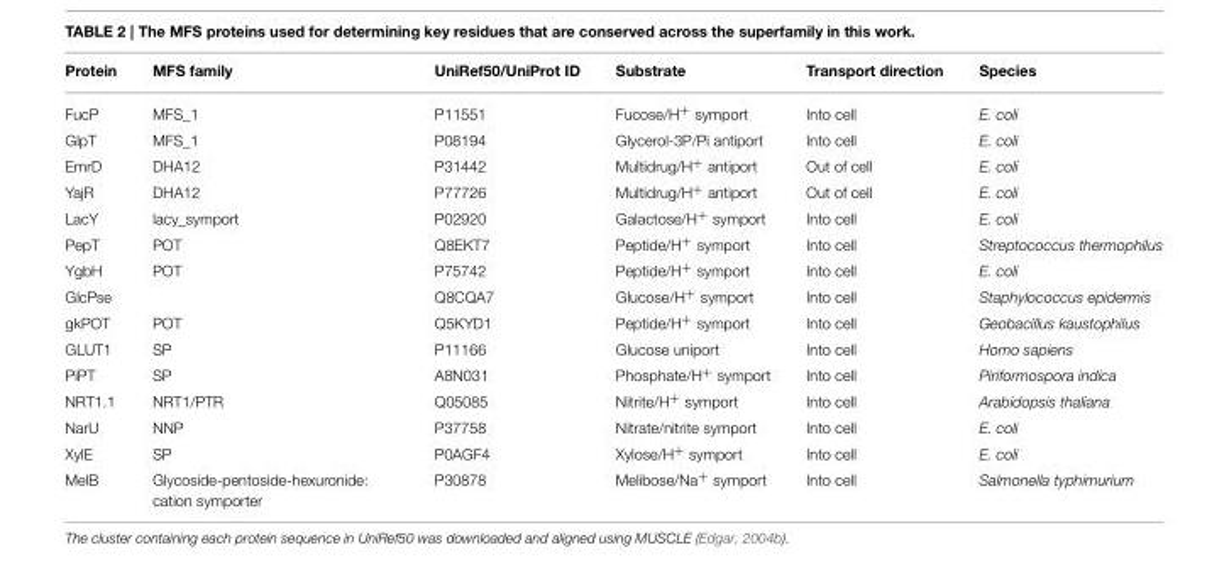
<table><thead><tr><td>Protein</td><td>MFS family</td><td>UniRef50/UniProt ID</td><td>Substrate</td><td>Transport direction</td><td>Species</td></tr></thead><tbody><tr><td>FucP</td><td>MFS_1</td><td>P11551</td><td>Fucose/H<sup>+</sup> symport</td><td>Into cell</td><td>E. coli</td></tr><tr><td>GlpT</td><td>MFS_1</td><td>P08194</td><td>Glycerol-3P/Pi antiport</td><td>Into cell</td><td>E. coli</td></tr><tr><td>EmrD</td><td>DHA12</td><td>P31442</td><td>Multidrug/H<sup>+</sup> antiport</td><td>Out of cell</td><td>E. coli</td></tr><tr><td>YajR</td><td>DHA12</td><td>P77726</td><td>Multidrug/H<sup>+</sup> antiport</td><td>Out of cell</td><td>E. coli</td></tr><tr><td>LacY</td><td>lacy_symport</td><td>P02920</td><td>Galactose/H<sup>+</sup> symport</td><td>Into cell</td><td>E. coli</td></tr><tr><td>PepT</td><td>POT</td><td>Q8EKT7</td><td>Peptide/H<sup>+</sup> symport</td><td>Into cell</td><td>Streptococcus thermophilus</td></tr><tr><td>YgbH</td><td>POT</td><td>P75742</td><td>Peptide/H<sup>+</sup> symport</td><td>Into cell</td><td>E. coli</td></tr><tr><td>GlcPse</td><td></td><td>Q8CQA7</td><td>Glucose/H<sup>+</sup> symport</td><td>Into cell</td><td>Staphylococcus epidermis</td></tr><tr><td>gkPOT</td><td>POT</td><td>Q5KYD1</td><td>Peptide/H<sup>+</sup> symport</td><td>Into cell</td><td>Geobacillus kaustophilus</td></tr><tr><td>GLUT1</td><td>SP</td><td>P11166</td><td>Glucose uniport</td><td>Into cell</td><td>Homo sapiens</td></tr><tr><td>PiPT</td><td>SP</td><td>A8N031</td><td>Phosphate/H<sup>+</sup> symport</td><td>Into cell</td><td>Piriformospora indica</td></tr><tr><td>NRT1.1</td><td>NRT1/PTR</td><td>Q05085</td><td>Nitrite/H<sup>+</sup> symport</td><td>Into cell</td><td>Arabidopsis thaliana</td></tr><tr><td>NarU</td><td>NNP</td><td>P37758</td><td>Nitrate/nitrite symport</td><td>Into cell</td><td>E. coli</td></tr><tr><td>XylE</td><td>SP</td><td>P0AGF4</td><td>Xylose/H<sup>+</sup> symport</td><td>Into cell</td><td>E. coli</td></tr><tr><td>MelB</td><td>Glycoside-pentoside-hexuronide: cation symporter</td><td>P30878</td><td>Melibose/Na<sup>+</sup> symport</td><td>Into cell</td><td>Salmonella typhimurium</td></tr></tbody></table>